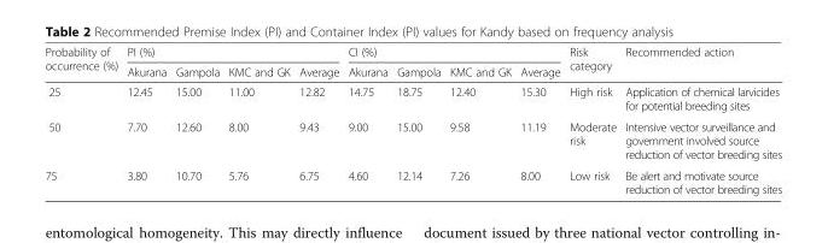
<table><thead><tr><td rowspan="2">Probability of occurrence (%)</td><td colspan="4">PI (%)</td><td colspan="4">CI (%)</td><td rowspan="2">Risk category</td><td rowspan="2">Recommended action</td></tr><tr><td>Akurana</td><td>Gampola</td><td>KMC and GK</td><td>Average</td><td>Akurana</td><td>Gampola</td><td>KMC and GK</td><td>Average</td></tr></thead><tbody><tr><td>25</td><td>12.45</td><td>15.00</td><td>11.00</td><td>12.82</td><td>14.75</td><td>18.75</td><td>12.40</td><td>15.30</td><td>High risk</td><td>Application of chemical larvicides for potential breeding sites</td></tr><tr><td>50</td><td>7.70</td><td>12.60</td><td>8.00</td><td>9.43</td><td>9.00</td><td>15.00</td><td>9.58</td><td>11.19</td><td>Moderate risk</td><td>Intensive vector surveillance and government involved source reduction of vector breeding sites</td></tr><tr><td>75</td><td>3.80</td><td>10.70</td><td>5.76</td><td>6.75</td><td>4.60</td><td>12.14</td><td>7.26</td><td>8.00</td><td>Low risk</td><td>Be alert and motivate source reduction of vector breeding sites</td></tr></tbody></table>